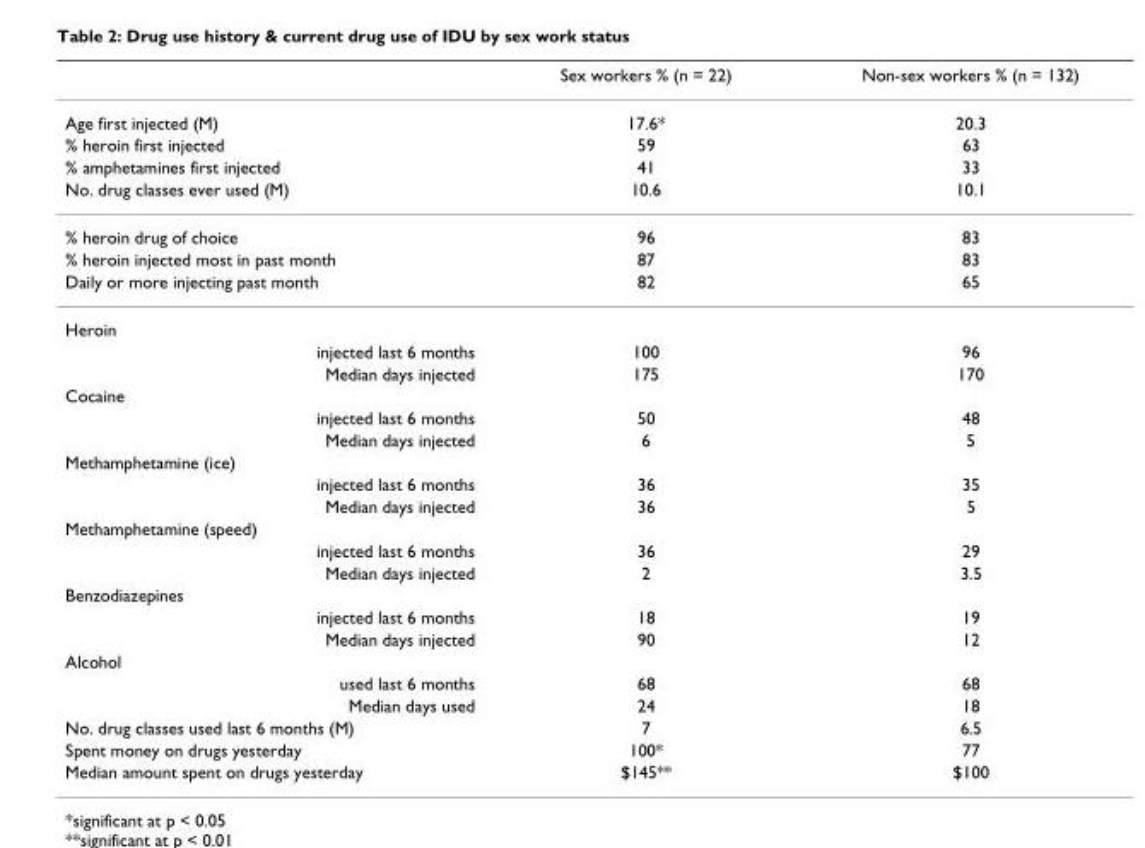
<table><thead><tr><td></td><td>Sex workers % (n = 22)</td><td>Non-sex workers % (n = 132)</td></tr></thead><tbody><tr><td>Age first injected (M)</td><td>17.6*</td><td>20.3</td></tr><tr><td>% heroin first injected</td><td>59</td><td>63</td></tr><tr><td>% amphetamines first injected</td><td>41</td><td>33</td></tr><tr><td>No. drug classes ever used (M)</td><td>10.6</td><td>10.1</td></tr><tr><td>% heroin drug of choice</td><td>96</td><td>83</td></tr><tr><td>% heroin injected most in past month</td><td>87</td><td>83</td></tr><tr><td>Daily or more injecting past month</td><td>82</td><td>65</td></tr><tr><td colspan="3">Heroin</td></tr><tr><td>injected last 6 months</td><td>100</td><td>96</td></tr><tr><td>Median days injected</td><td>175</td><td>170</td></tr><tr><td colspan="3">Cocaine</td></tr><tr><td>injected last 6 months</td><td>50</td><td>48</td></tr><tr><td>Median days injected</td><td>6</td><td>5</td></tr><tr><td colspan="3">Methamphetamine (ice)</td></tr><tr><td>injected last 6 months</td><td>36</td><td>35</td></tr><tr><td>Median days injected</td><td>36</td><td>5</td></tr><tr><td colspan="3">Methamphetamine (speed)</td></tr><tr><td>injected last 6 months</td><td>36</td><td>29</td></tr><tr><td>Median days injected</td><td>2</td><td>3.5</td></tr><tr><td colspan="3">Benzodiazepines</td></tr><tr><td>injected last 6 months</td><td>18</td><td>19</td></tr><tr><td>Median days injected</td><td>90</td><td>12</td></tr><tr><td colspan="3">Alcohol</td></tr><tr><td>used last 6 months</td><td>68</td><td>68</td></tr><tr><td>Median days used</td><td>24</td><td>18</td></tr><tr><td>No. drug classes used last 6 months (M)</td><td>7</td><td>6.5</td></tr><tr><td>Spent money on drugs yesterday</td><td>100*</td><td>77</td></tr><tr><td>Median amount spent on drugs yesterday</td><td>$145**</td><td>$100</td></tr></tbody></table>